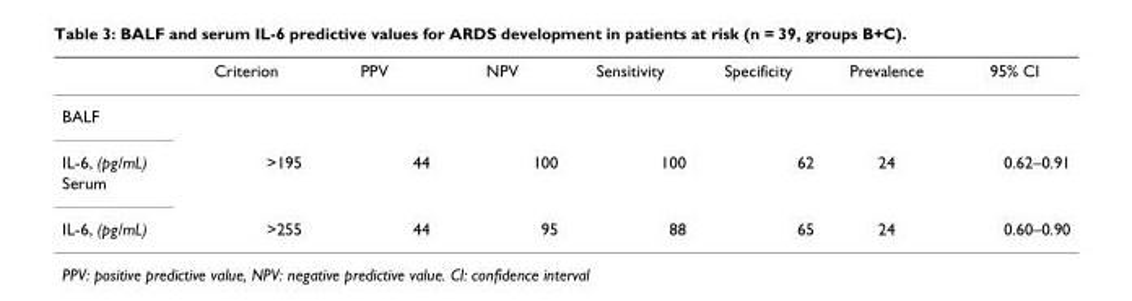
<table><thead><tr><td></td><td>Criterion</td><td>PPV</td><td>NPV</td><td>Sensitivity</td><td>Specificity</td><td>Prevalence</td><td>95% CI</td></tr></thead><tbody><tr><td colspan="8">BALF</td></tr><tr><td>IL-6, (pg/mL)</td><td>&gt;195</td><td>44</td><td>100</td><td>100</td><td>62</td><td>24</td><td>0.62–0.91</td></tr><tr><td colspan="8">Serum</td></tr><tr><td>IL-6, (pg/mL)</td><td>&gt;255</td><td>44</td><td>95</td><td>88</td><td>65</td><td>24</td><td>0.60–0.90</td></tr></tbody></table>